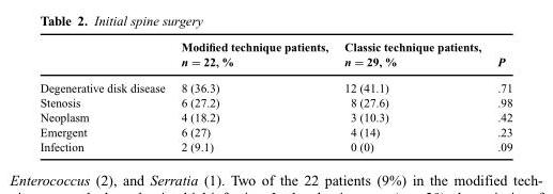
<table><thead><tr><td></td><td>Modified technique patients, n = 22, %</td><td>Classic technique patients, n = 29, %</td><td>P</td></tr></thead><tbody><tr><td>Degenerative disk disease</td><td>8 (36.3)</td><td>12 (41.1)</td><td>.71</td></tr><tr><td>Stenosis</td><td>6 (27.2)</td><td>8 (27.6)</td><td>.98</td></tr><tr><td>Neoplasm</td><td>4 (18.2)</td><td>3 (10.3)</td><td>.42</td></tr><tr><td>Emergent</td><td>6 (27)</td><td>4 (14)</td><td>.23</td></tr><tr><td>Infection</td><td>2 (9.1)</td><td>0 (0)</td><td>.09</td></tr></tbody></table>